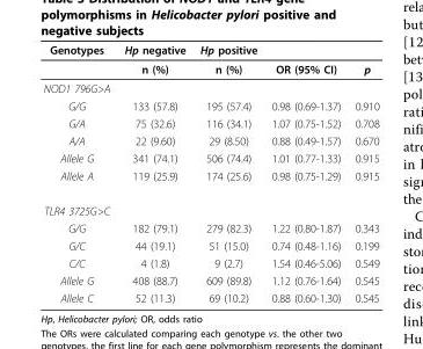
<table><thead><tr><td>Genotypes</td><td>Hp negative</td><td>Hp positive</td><td></td><td></td></tr></thead><tbody><tr><td></td><td>n (%)</td><td>n (%)</td><td>OR (95% CI)</td><td>p</td></tr><tr><td colspan="5">NOD1 796G&gt;A</td></tr><tr><td>G/G</td><td>133 (57.8)</td><td>195 (57.4)</td><td>0.98 (0.69-1.37)</td><td>0.910</td></tr><tr><td>G/A</td><td>75 (32.6)</td><td>116 (34.1)</td><td>1.07 (0.75-1.52)</td><td>0.708</td></tr><tr><td>A/A</td><td>22 (9.60)</td><td>29 (8.50)</td><td>0.88 (0.49-1.57)</td><td>0.670</td></tr><tr><td>Allele G</td><td>341 (74.1)</td><td>506 (74.4)</td><td>1.01 (0.77-1.33)</td><td>0.915</td></tr><tr><td>Allele A</td><td>119 (25.9)</td><td>174 (25.6)</td><td>0.98 (0.75-1.29)</td><td>0.915</td></tr><tr><td colspan="5">TLR4 3725G&gt;C</td></tr><tr><td>G/G</td><td>182 (79.1)</td><td>279 (82.3)</td><td>1.22 (0.80-1.87)</td><td>0.343</td></tr><tr><td>G/C</td><td>44 (19.1)</td><td>51 (15.0)</td><td>0.74 (0.48-1.16)</td><td>0.199</td></tr><tr><td>C/C</td><td>4 (1.8)</td><td>9 (2.7)</td><td>1.54 (0.46-5.06)</td><td>0.549</td></tr><tr><td>Allele G</td><td>408 (88.7)</td><td>609 (89.8)</td><td>1.12 (0.76-1.64)</td><td>0.545</td></tr><tr><td>Allele C</td><td>52 (11.3)</td><td>69 (10.2)</td><td>0.88 (0.60-1.30)</td><td>0.545</td></tr></tbody></table>